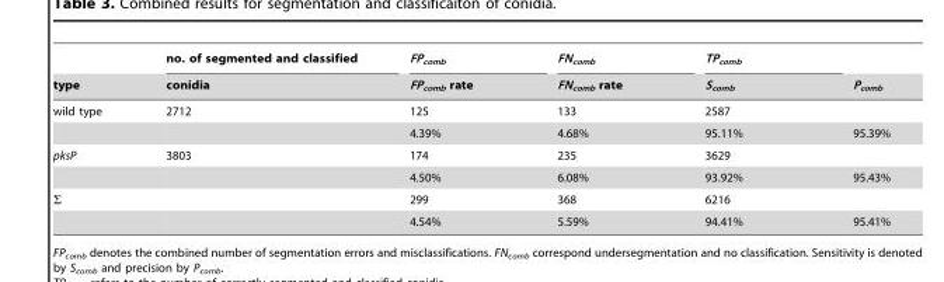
<table><thead><tr><td rowspan="2">type</td><td rowspan="2">no. of segmented and classified conidia</td><td rowspan="2">FP<sub>comb</sub> FP<sub>comb</sub> rate</td><td rowspan="2">FN<sub>comb</sub> FN<sub>comb</sub> rate</td><td rowspan="2">TP<sub>comb</sub> S<sub>comb</sub></td><td rowspan="2">P<sub>comb</sub></td></tr><tr></tr></thead><tbody><tr><td rowspan="2">wild type</td><td>2712</td><td>125</td><td>133</td><td>2587</td><td></td></tr><tr><td></td><td>4.39%</td><td>4.68%</td><td>95.11%</td><td>95.39%</td></tr><tr><td rowspan="2">pksP</td><td>3803</td><td>174</td><td>235</td><td>3629</td><td></td></tr><tr><td></td><td>4.50%</td><td>6.08%</td><td>93.92%</td><td>95.43%</td></tr><tr><td rowspan="2">Σ</td><td></td><td>299</td><td>368</td><td>6216</td><td></td></tr><tr><td></td><td>4.54%</td><td>5.59%</td><td>94.41%</td><td>95.41%</td></tr></tbody></table>